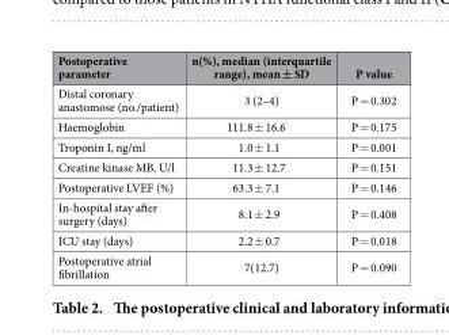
<table><thead><tr><td>Postoperative parameter</td><td>n(%), median (interquartile range), mean ± SD</td><td>P value</td></tr></thead><tbody><tr><td>Distal coronary anastomose (no./patient)</td><td>3 (2–4)</td><td>P = 0.302</td></tr><tr><td>Haemoglobin</td><td>111.8 ± 16.6</td><td>P = 0.175</td></tr><tr><td>Troponin I, ng/ml</td><td>1.0 ± 1.1</td><td>P = 0.001</td></tr><tr><td>Creatine kinase MB, U/l</td><td>11.3 ± 12.7</td><td>P = 0.151</td></tr><tr><td>Postoperative LVEF (%)</td><td>63.3 ± 7.1</td><td>P = 0.146</td></tr><tr><td>In-hospital stay after surgery (days)</td><td>8.1 ± 2.9</td><td>P = 0.408</td></tr><tr><td>ICU stay (days)</td><td>2.2 ± 0.7</td><td>P = 0.018</td></tr><tr><td>Postoperative atrial fibrillation</td><td>7(12.7)</td><td>P = 0.090</td></tr></tbody></table>